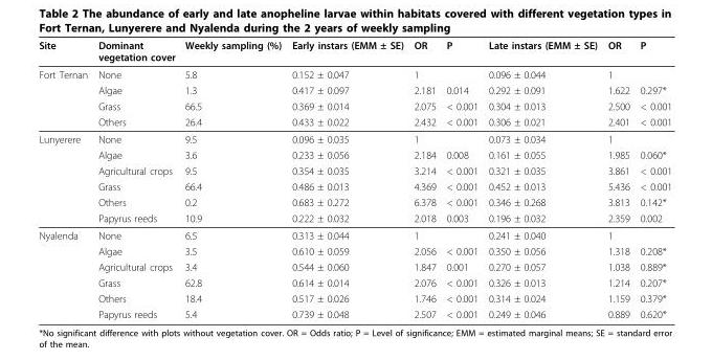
<table><thead><tr><td>Site</td><td>Dominant vegetation cover</td><td>Weekly sampling (%)</td><td>Early instars (EMM ± SE)</td><td>OR</td><td>P</td><td>Late instars (EMM ± SE)</td><td>OR</td><td>P</td></tr></thead><tbody><tr><td rowspan="4">Fort Ternan</td><td>None</td><td>5.8</td><td>0.152 ± 0.047</td><td>1</td><td></td><td>0.096 ± 0.044</td><td>1</td><td></td></tr><tr><td>Algae</td><td>1.3</td><td>0.417 ± 0.097</td><td>2.181</td><td>0.014</td><td>0.292 ± 0.091</td><td>1.622</td><td>0.297*</td></tr><tr><td>Grass</td><td>66.5</td><td>0.369 ± 0.014</td><td>2.075</td><td>&lt; 0.001</td><td>0.304 ± 0.013</td><td>2.500</td><td>&lt; 0.001</td></tr><tr><td>Others</td><td>26.4</td><td>0.433 ± 0.022</td><td>2.432</td><td>&lt; 0.001</td><td>0.306 ± 0.021</td><td>2.401</td><td>&lt; 0.001</td></tr><tr><td rowspan="6">Lunyerere</td><td>None</td><td>9.5</td><td>0.096 ± 0.035</td><td>1</td><td></td><td>0.073 ± 0.034</td><td>1</td><td></td></tr><tr><td>Algae</td><td>3.6</td><td>0.233 ± 0.056</td><td>2.184</td><td>0.008</td><td>0.161 ± 0.055</td><td>1.985</td><td>0.060*</td></tr><tr><td>Agricultural crops</td><td>9.5</td><td>0.354 ± 0.035</td><td>3.214</td><td>&lt; 0.001</td><td>0.321 ± 0.035</td><td>3.861</td><td>&lt; 0.001</td></tr><tr><td>Grass</td><td>66.4</td><td>0.486 ± 0.013</td><td>4.369</td><td>&lt; 0.001</td><td>0.452 ± 0.013</td><td>5.436</td><td>&lt; 0.001</td></tr><tr><td>Others</td><td>0.2</td><td>0.683 ± 0.272</td><td>6.378</td><td>&lt; 0.001</td><td>0.346 ± 0.268</td><td>3.813</td><td>0.142*</td></tr><tr><td>Papyrus reeds</td><td>10.9</td><td>0.222 ± 0.032</td><td>2.018</td><td>0.003</td><td>0.196 ± 0.032</td><td>2.359</td><td>0.002</td></tr><tr><td rowspan="6">Nyalenda</td><td>None</td><td>6.5</td><td>0.313 ± 0.044</td><td>1</td><td></td><td>0.241 ± 0.040</td><td>1</td><td></td></tr><tr><td>Algae</td><td>3.5</td><td>0.610 ± 0.059</td><td>2.056</td><td>&lt; 0.001</td><td>0.350 ± 0.056</td><td>1.318</td><td>0.208*</td></tr><tr><td>Agricultural crops</td><td>3.4</td><td>0.544 ± 0.060</td><td>1.847</td><td>0.001</td><td>0.270 ± 0.057</td><td>1.038</td><td>0.889*</td></tr><tr><td>Grass</td><td>62.8</td><td>0.614 ± 0.014</td><td>2.076</td><td>&lt; 0.001</td><td>0.326 ± 0.013</td><td>1.214</td><td>0.207*</td></tr><tr><td>Others</td><td>18.4</td><td>0.517 ± 0.026</td><td>1.746</td><td>&lt; 0.001</td><td>0.314 ± 0.024</td><td>1.159</td><td>0.379*</td></tr><tr><td>Papyrus reeds</td><td>5.4</td><td>0.739 ± 0.048</td><td>2.507</td><td>&lt; 0.001</td><td>0.249 ± 0.046</td><td>0.889</td><td>0.620*</td></tr></tbody></table>